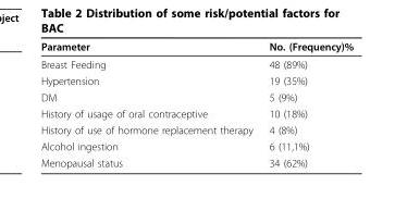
<table><thead><tr><td>Parameter</td><td>No. (Frequency)%</td></tr></thead><tbody><tr><td>Breast Feeding</td><td>48 (89%)</td></tr><tr><td>Hypertension</td><td>19 (35%)</td></tr><tr><td>DM</td><td>5 (9%)</td></tr><tr><td>History of usage of oral contraceptive</td><td>10 (18%)</td></tr><tr><td>History of use of hormone replacement therapy</td><td>4 (8%)</td></tr><tr><td>Alcohol ingestion</td><td>6 (11,1%)</td></tr><tr><td>Menopausal status</td><td>34 (62%)</td></tr></tbody></table>